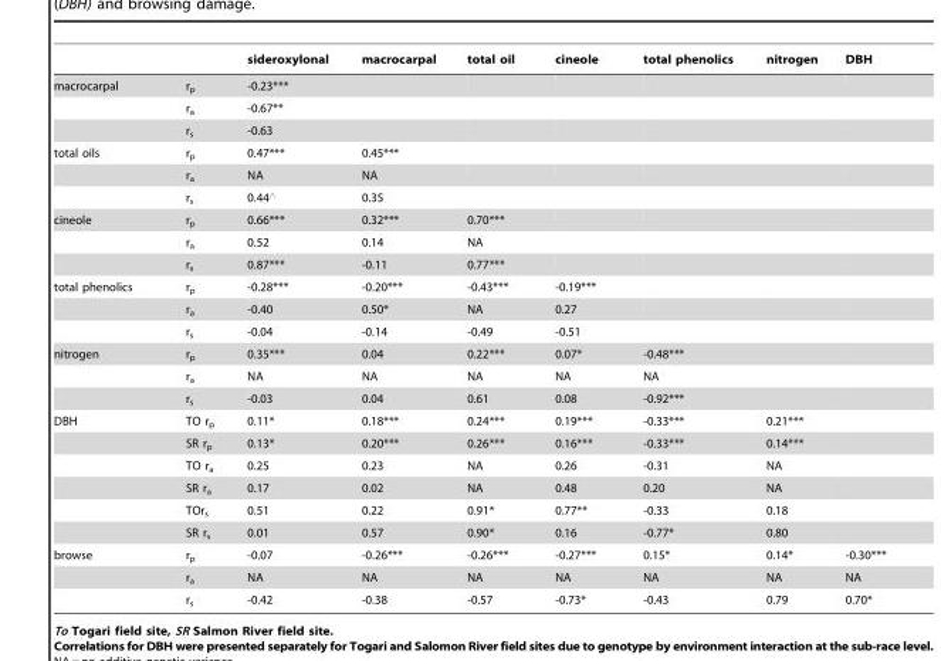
<table><thead><tr><td></td><td></td><td>sideroxylonal</td><td>macrocarpal</td><td>total oil</td><td>cineole</td><td>total phenolics</td><td>nitrogen</td><td>DBH</td></tr></thead><tbody><tr><td rowspan="3">macrocarpal</td><td>r<sub>p</sub></td><td>-0.23***</td><td></td><td></td><td></td><td></td><td></td><td></td></tr><tr><td>r<sub>a</sub></td><td>-0.67**</td><td></td><td></td><td></td><td></td><td></td><td></td></tr><tr><td>r<sub>s</sub></td><td>-0.63</td><td></td><td></td><td></td><td></td><td></td><td></td></tr><tr><td rowspan="3">total oils</td><td>r<sub>p</sub></td><td>0.47***</td><td>0.45***</td><td></td><td></td><td></td><td></td><td></td></tr><tr><td>r<sub>a</sub></td><td>NA</td><td>NA</td><td></td><td></td><td></td><td></td><td></td></tr><tr><td>r<sub>s</sub></td><td>0.44‘</td><td>0.35</td><td></td><td></td><td></td><td></td><td></td></tr><tr><td rowspan="3">cineole</td><td>r<sub>p</sub></td><td>0.66***</td><td>0.32***</td><td>0.70***</td><td></td><td></td><td></td><td></td></tr><tr><td>r<sub>a</sub></td><td>0.52</td><td>0.14</td><td>NA</td><td></td><td></td><td></td><td></td></tr><tr><td>r<sub>s</sub></td><td>0.87***</td><td>-0.11</td><td>0.77***</td><td></td><td></td><td></td><td></td></tr><tr><td rowspan="3">total phenolics</td><td>r<sub>p</sub></td><td>-0.28***</td><td>-0.20***</td><td>-0.43***</td><td>-0.19***</td><td></td><td></td><td></td></tr><tr><td>r<sub>a</sub></td><td>-0.40</td><td>0.50*</td><td>NA</td><td>0.27</td><td></td><td></td><td></td></tr><tr><td>r<sub>s</sub></td><td>-0.04</td><td>-0.14</td><td>-0.49</td><td>-0.51</td><td></td><td></td><td></td></tr><tr><td rowspan="3">nitrogen</td><td>r<sub>p</sub></td><td>0.35***</td><td>0.04</td><td>0.22***</td><td>0.07*</td><td>-0.48***</td><td></td><td></td></tr><tr><td>r<sub>a</sub></td><td>NA</td><td>NA</td><td>NA</td><td>NA</td><td>NA</td><td></td><td></td></tr><tr><td>r<sub>s</sub></td><td>-0.03</td><td>0.04</td><td>0.61</td><td>0.08</td><td>-0.92***</td><td></td><td></td></tr><tr><td rowspan="6">DBH</td><td>TO r<sub>p</sub></td><td>0.11*</td><td>0.18***</td><td>0.24***</td><td>0.19***</td><td>-0.33***</td><td>0.21***</td><td></td></tr><tr><td>SR r<sub>p</sub></td><td>0.13*</td><td>0.20***</td><td>0.26***</td><td>0.16***</td><td>-0.33***</td><td>0.14***</td><td></td></tr><tr><td>TO r<sub>a</sub></td><td>0.25</td><td>0.23</td><td>NA</td><td>0.26</td><td>-0.31</td><td>NA</td><td></td></tr><tr><td>SR r<sub>a</sub></td><td>0.17</td><td>0.02</td><td>NA</td><td>0.48</td><td>0.20</td><td>NA</td><td></td></tr><tr><td>TOr<sub>s</sub></td><td>0.51</td><td>0.22</td><td>0.91*</td><td>0.77**</td><td>-0.33</td><td>0.18</td><td></td></tr><tr><td>SR r<sub>s</sub></td><td>0.01</td><td>0.57</td><td>0.90*</td><td>0.16</td><td>-0.77*</td><td>0.80</td><td></td></tr><tr><td rowspan="3">browse</td><td>r<sub>p</sub></td><td>-0.07</td><td>-0.26***</td><td>-0.26***</td><td>-0.27***</td><td>0.15*</td><td>0.14*</td><td>-0.30***</td></tr><tr><td>r<sub>a</sub></td><td>NA</td><td>NA</td><td>NA</td><td>NA</td><td>NA</td><td>NA</td><td>NA</td></tr><tr><td>r<sub>s</sub></td><td>-0.42</td><td>-0.38</td><td>-0.57</td><td>-0.73*</td><td>-0.43</td><td>0.79</td><td>0.70*</td></tr></tbody></table>